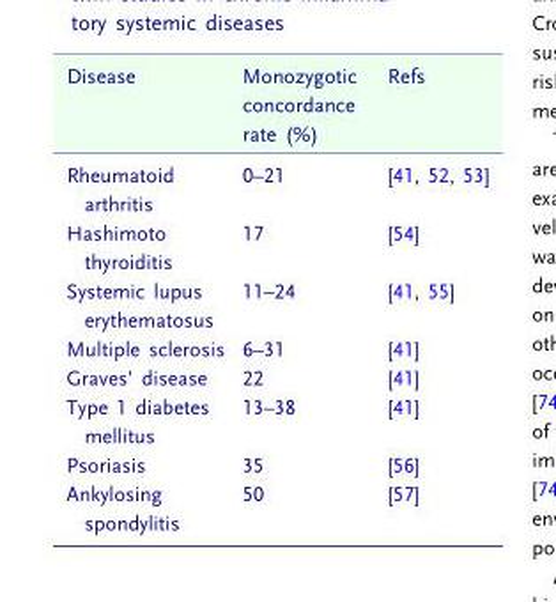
<table><thead><tr><td>Disease</td><td>Monozygotic concordance rate (%)</td><td>Refs</td></tr></thead><tbody><tr><td>Rheumatoid arthritis</td><td>0–21</td><td>[41, 52, 53]</td></tr><tr><td>Hashimoto thyroiditis</td><td>17</td><td>[54]</td></tr><tr><td>Systemic lupus erythematosus</td><td>11–24</td><td>[41, 55]</td></tr><tr><td>Multiple sclerosis</td><td>6–31</td><td>[41]</td></tr><tr><td>Graves’ disease</td><td>22</td><td>[41]</td></tr><tr><td>Type 1 diabetes mellitus</td><td>13–38</td><td>[41]</td></tr><tr><td>Psoriasis</td><td>35</td><td>[56]</td></tr><tr><td>Ankylosing spondylitis</td><td>50</td><td>[57]</td></tr></tbody></table>